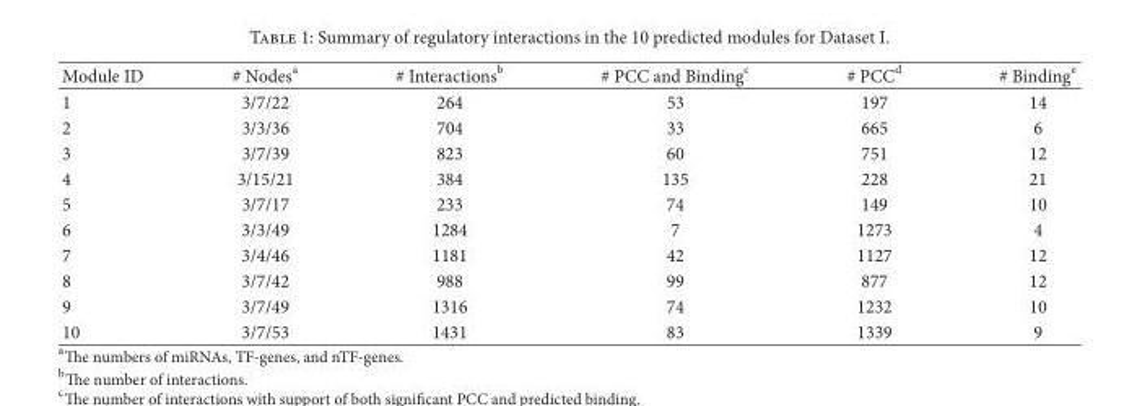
<table><thead><tr><td>Module ID</td><td># Nodes<sup>a</sup></td><td># Interactions<sup>b</sup></td><td># PCC and Binding<sup>c</sup></td><td># PCC<sup>d</sup></td><td># Binding<sup>e</sup></td></tr></thead><tbody><tr><td>1</td><td>3/7/22</td><td>264</td><td>53</td><td>197</td><td>14</td></tr><tr><td>2</td><td>3/3/36</td><td>704</td><td>33</td><td>665</td><td>6</td></tr><tr><td>3</td><td>3/7/39</td><td>823</td><td>60</td><td>751</td><td>12</td></tr><tr><td>4</td><td>3/15/21</td><td>384</td><td>135</td><td>228</td><td>21</td></tr><tr><td>5</td><td>3/7/17</td><td>233</td><td>74</td><td>149</td><td>10</td></tr><tr><td>6</td><td>3/3/49</td><td>1284</td><td>7</td><td>1273</td><td>4</td></tr><tr><td>7</td><td>3/4/46</td><td>1181</td><td>42</td><td>1127</td><td>12</td></tr><tr><td>8</td><td>3/7/42</td><td>988</td><td>99</td><td>877</td><td>12</td></tr><tr><td>9</td><td>3/7/49</td><td>1316</td><td>74</td><td>1232</td><td>10</td></tr><tr><td>10</td><td>3/7/53</td><td>1431</td><td>83</td><td>1339</td><td>9</td></tr></tbody></table>